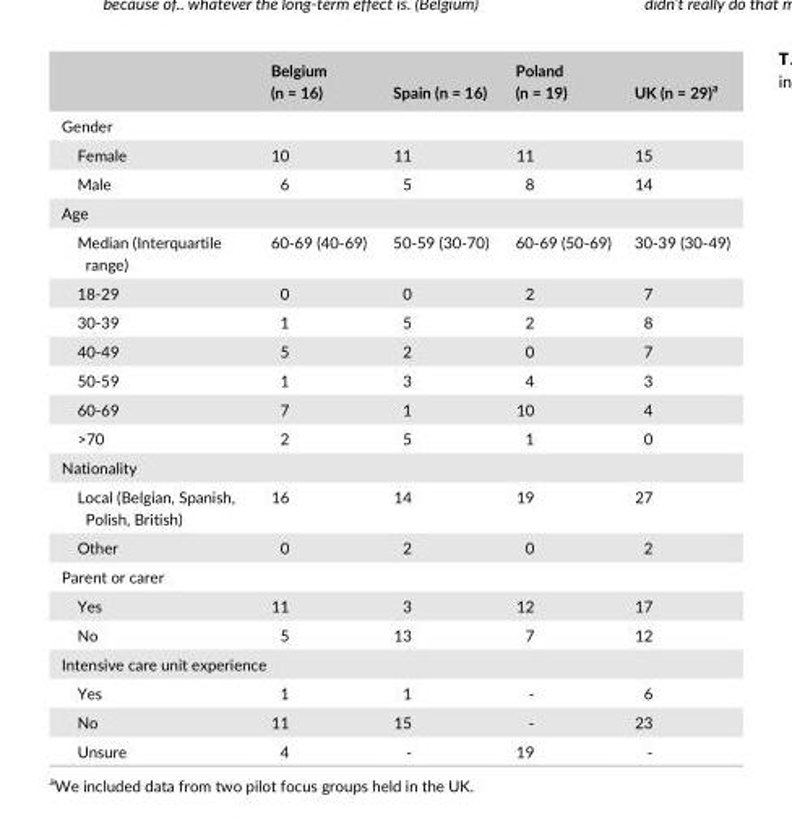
<table><thead><tr><td></td><td>Belgium (n = 16)</td><td>Spain (n = 16)</td><td>Poland (n = 19)</td><td>UK (n = 29)<sup>a</sup></td></tr></thead><tbody><tr><td colspan="5">Gender</td></tr><tr><td>Female</td><td>10</td><td>11</td><td>11</td><td>15</td></tr><tr><td>Male</td><td>6</td><td>5</td><td>8</td><td>14</td></tr><tr><td colspan="5">Age</td></tr><tr><td>Median (Interquartile range)</td><td>60- 69 (40- 69)</td><td>50- 59 (30- 70)</td><td>60- 69 (50- 69)</td><td>30- 39 (30- 49)</td></tr><tr><td>18- 29</td><td>0</td><td>0</td><td>2</td><td>7</td></tr><tr><td>30- 39</td><td>1</td><td>5</td><td>2</td><td>8</td></tr><tr><td>40- 49</td><td>5</td><td>2</td><td>0</td><td>7</td></tr><tr><td>50- 59</td><td>1</td><td>3</td><td>4</td><td>3</td></tr><tr><td>60- 69</td><td>7</td><td>1</td><td>10</td><td>4</td></tr><tr><td>&gt;70</td><td>2</td><td>5</td><td>1</td><td>0</td></tr><tr><td colspan="5">Nationality</td></tr><tr><td>Local (Belgian, Spanish, Polish, British)</td><td>16</td><td>14</td><td>19</td><td>27</td></tr><tr><td>Other</td><td>0</td><td>2</td><td>0</td><td>2</td></tr><tr><td colspan="5">Parent or carer</td></tr><tr><td>Yes</td><td>11</td><td>3</td><td>12</td><td>17</td></tr><tr><td>No</td><td>5</td><td>13</td><td>7</td><td>12</td></tr><tr><td colspan="5">Intensive care unit experience</td></tr><tr><td>Yes</td><td>1</td><td>1</td><td>-</td><td>6</td></tr><tr><td>No</td><td>11</td><td>15</td><td>-</td><td>23</td></tr><tr><td>Unsure</td><td>4</td><td>-</td><td>19</td><td>-</td></tr></tbody></table>